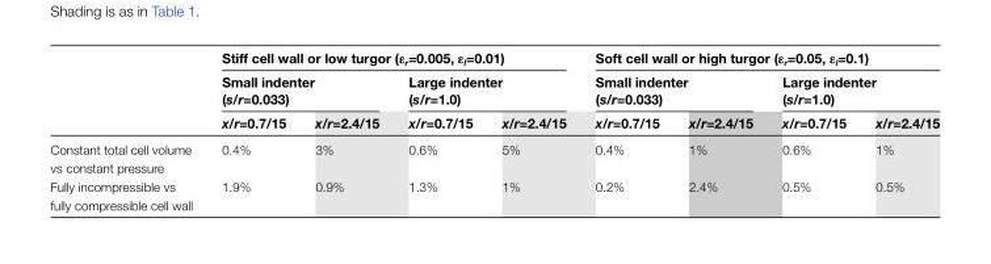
<table><thead><tr><td rowspan="3"></td><td colspan="4">Stiff cell wall or low turgor (ε<sub>r</sub>=0.005, ε<sub>l</sub>=0.01)</td><td colspan="4">Soft cell wall or high turgor (ε<sub>r</sub>=0.05, ε<sub>l</sub>=0.1)</td></tr><tr><td colspan="2">Small indenter (s/r=0.033)</td><td colspan="2">Large indenter (s/r=1.0)</td><td colspan="2">Small indenter (s/r=0.033)</td><td colspan="2">Large indenter (s/r=1.0)</td></tr><tr><td>x/r=0.7/15</td><td>x/r=2.4/15</td><td>x/r=0.7/15</td><td>x/r=2.4/15</td><td>x/r=0.7/15</td><td>x/r=2.4/15</td><td>x/r=0.7/15</td><td>x/r=2.4/15</td></tr></thead><tbody><tr><td>Constant total cell volume vs constant pressure</td><td>0.4%</td><td>3%</td><td>0.6%</td><td>5%</td><td>0.4%</td><td>1%</td><td>0.6%</td><td>1%</td></tr><tr><td>Fully incompressible vs fully compressible cell wall</td><td>1.9%</td><td>0.9%</td><td>1.3%</td><td>1%</td><td>0.2%</td><td>2.4%</td><td>0.5%</td><td>0.5%</td></tr></tbody></table>